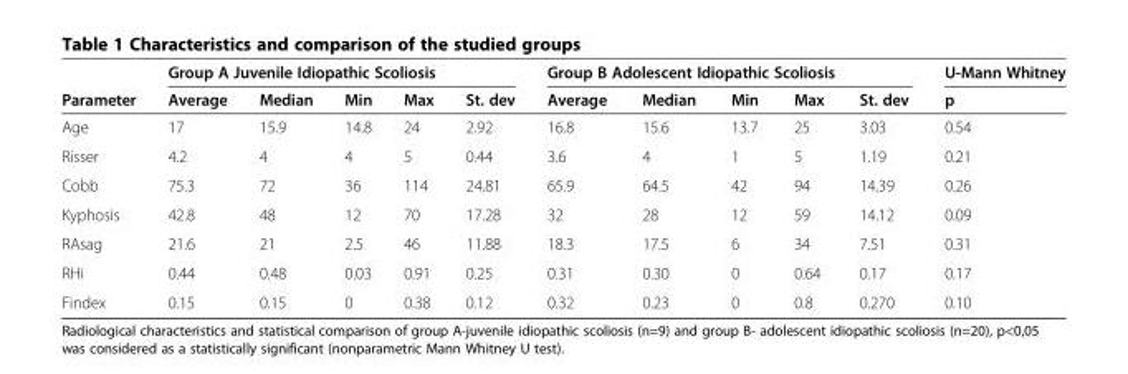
<table><thead><tr><td rowspan="2">Parameter</td><td colspan="5">Group A Juvenile Idiopathic Scoliosis</td><td colspan="5">Group B Adolescent Idiopathic Scoliosis</td><td rowspan="2">U-Mann Whitney p</td></tr><tr><td>Average</td><td>Median</td><td>Min</td><td>Max</td><td>St. dev</td><td>Average</td><td>Median</td><td>Min</td><td>Max</td><td>St. dev</td></tr></thead><tbody><tr><td>Age</td><td>17</td><td>15.9</td><td>14.8</td><td>24</td><td>2.92</td><td>16.8</td><td>15.6</td><td>13.7</td><td>25</td><td>3.03</td><td>0.54</td></tr><tr><td>Risser</td><td>4.2</td><td>4</td><td>4</td><td>5</td><td>0.44</td><td>3.6</td><td>4</td><td>1</td><td>5</td><td>1.19</td><td>0.21</td></tr><tr><td>Cobb</td><td>75.3</td><td>72</td><td>36</td><td>114</td><td>24.81</td><td>65.9</td><td>64.5</td><td>42</td><td>94</td><td>14.39</td><td>0.26</td></tr><tr><td>Kyphosis</td><td>42.8</td><td>48</td><td>12</td><td>70</td><td>17.28</td><td>32</td><td>28</td><td>12</td><td>59</td><td>14.12</td><td>0.09</td></tr><tr><td>RAsag</td><td>21.6</td><td>21</td><td>2.5</td><td>46</td><td>11.88</td><td>18.3</td><td>17.5</td><td>6</td><td>34</td><td>7.51</td><td>0.31</td></tr><tr><td>RHi</td><td>0.44</td><td>0.48</td><td>0.03</td><td>0.91</td><td>0.25</td><td>0.31</td><td>0.30</td><td>0</td><td>0.64</td><td>0.17</td><td>0.17</td></tr><tr><td>Findex</td><td>0.15</td><td>0.15</td><td>0</td><td>0.38</td><td>0.12</td><td>0.32</td><td>0.23</td><td>0</td><td>0.8</td><td>0.270</td><td>0.10</td></tr></tbody></table>